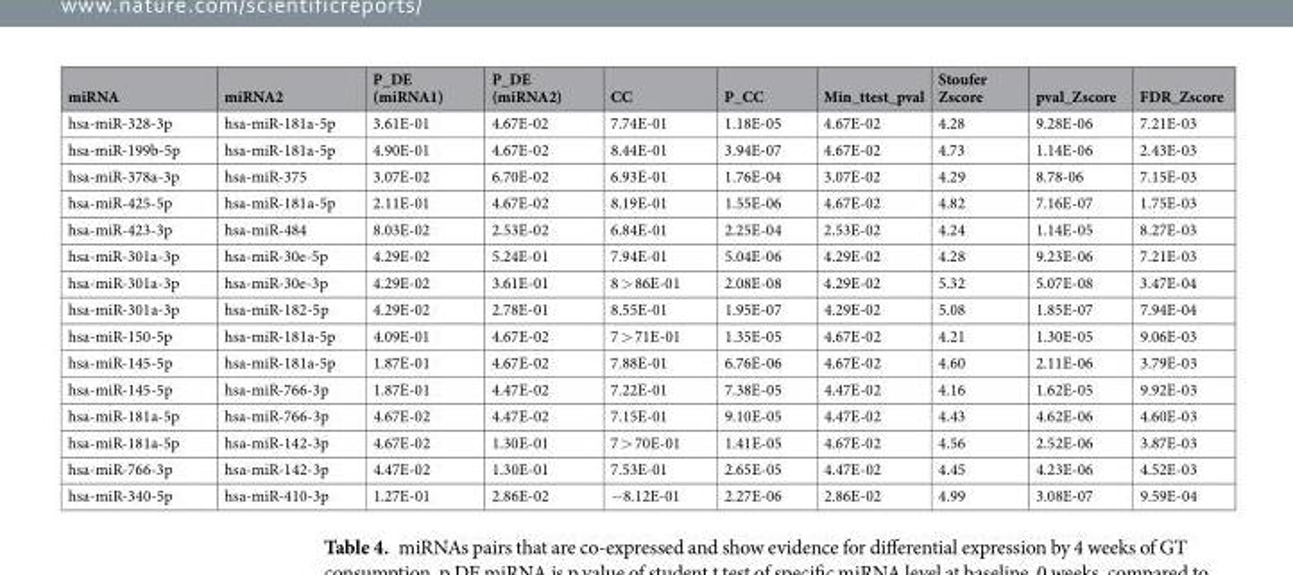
<table><thead><tr><td>miRNA</td><td>miRNA2</td><td>P_DE (miRNA1)</td><td>P_DE (miRNA2)</td><td>CC</td><td>P_CC</td><td>Min_ttest_pval</td><td>Stoufer Zscore</td><td>pval_Zscore</td><td>FDR_Zscore</td></tr></thead><tbody><tr><td>hsa-miR-328-3p</td><td>hsa-miR-181a-5p</td><td>3.61E-01</td><td>4.67E-02</td><td>7.74E-01</td><td>1.18E-05</td><td>4.67E-02</td><td>4.28</td><td>9.28E-06</td><td>7.21E-03</td></tr><tr><td>hsa-miR-199b-5p</td><td>hsa-miR-181a-5p</td><td>4.90E-01</td><td>4.67E-02</td><td>8.44E-01</td><td>3.94E-07</td><td>4.67E-02</td><td>4.73</td><td>1.14E-06</td><td>2.43E-03</td></tr><tr><td>hsa-miR-378a-3p</td><td>hsa-miR-375</td><td>3.07E-02</td><td>6.70E-02</td><td>6.93E-01</td><td>1.76E-04</td><td>3.07E-02</td><td>4.29</td><td>8.78-06</td><td>7.15E-03</td></tr><tr><td>hsa-miR-425-5p</td><td>hsa-miR-181a-5p</td><td>2.11E-01</td><td>4.67E-02</td><td>8.19E-01</td><td>1.55E-06</td><td>4.67E-02</td><td>4.82</td><td>7.16E-07</td><td>1.75E-03</td></tr><tr><td>hsa-miR-423-3p</td><td>hsa-miR-484</td><td>8.03E-02</td><td>2.53E-02</td><td>6.84E-01</td><td>2.25E-04</td><td>2.53E-02</td><td>4.24</td><td>1.14E-05</td><td>8.27E-03</td></tr><tr><td>hsa-miR-301a-3p</td><td>hsa-miR-30e-5p</td><td>4.29E-02</td><td>5.24E-01</td><td>7.94E-01</td><td>5.04E-06</td><td>4.29E-02</td><td>4.28</td><td>9.23E-06</td><td>7.21E-03</td></tr><tr><td>hsa-miR-301a-3p</td><td>hsa-miR-30e-3p</td><td>4.29E-02</td><td>3.61E-01</td><td>8 &gt; 86E-01</td><td>2.08E-08</td><td>4.29E-02</td><td>5.32</td><td>5.07E-08</td><td>3.47E-04</td></tr><tr><td>hsa-miR-301a-3p</td><td>hsa-miR-182-5p</td><td>4.29E-02</td><td>2.78E-01</td><td>8.55E-01</td><td>1.95E-07</td><td>4.29E-02</td><td>5.08</td><td>1.85E-07</td><td>7.94E-04</td></tr><tr><td>hsa-miR-150-5p</td><td>hsa-miR-181a-5p</td><td>4.09E-01</td><td>4.67E-02</td><td>7 &gt; 71E-01</td><td>1.35E-05</td><td>4.67E-02</td><td>4.21</td><td>1.30E-05</td><td>9.06E-03</td></tr><tr><td>hsa-miR-145-5p</td><td>hsa-miR-181a-5p</td><td>1.87E-01</td><td>4.67E-02</td><td>7.88E-01</td><td>6.76E-06</td><td>4.67E-02</td><td>4.60</td><td>2.11E-06</td><td>3.79E-03</td></tr><tr><td>hsa-miR-145-5p</td><td>hsa-miR-766-3p</td><td>1.87E-01</td><td>4.47E-02</td><td>7.22E-01</td><td>7.38E-05</td><td>4.47E-02</td><td>4.16</td><td>1.62E-05</td><td>9.92E-03</td></tr><tr><td>hsa-miR-181a-5p</td><td>hsa-miR-766-3p</td><td>4.67E-02</td><td>4.47E-02</td><td>7.15E-01</td><td>9.10E-05</td><td>4.47E-02</td><td>4.43</td><td>4.62E-06</td><td>4.60E-03</td></tr><tr><td>hsa-miR-181a-5p</td><td>hsa-miR-142-3p</td><td>4.67E-02</td><td>1.30E-01</td><td>7 &gt; 70E-01</td><td>1.41E-05</td><td>4.67E-02</td><td>4.56</td><td>2.52E-06</td><td>3.87E-03</td></tr><tr><td>hsa-miR-766-3p</td><td>hsa-miR-142-3p</td><td>4.47E-02</td><td>1.30E-01</td><td>7.53E-01</td><td>2.65E-05</td><td>4.47E-02</td><td>4.45</td><td>4.23E-06</td><td>4.52E-03</td></tr><tr><td>hsa-miR-340-5p</td><td>hsa-miR-410-3p</td><td>1.27E-01</td><td>2.86E-02</td><td>−8.12E-01</td><td>2.27E-06</td><td>2.86E-02</td><td>4.99</td><td>3.08E-07</td><td>9.59E-04</td></tr></tbody></table>